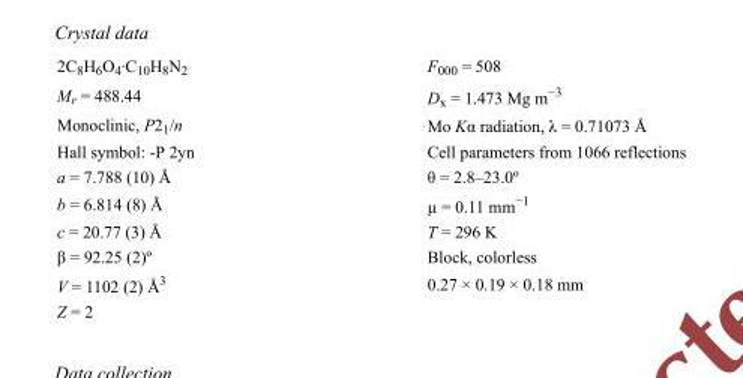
<table><tbody><tr><td>2C8H6O4·C10H8N2</td><td>F000 = 508</td></tr><tr><td>Mr = 488.44</td><td>Dx = 1.473 Mg m−3</td></tr><tr><td>Monoclinic, P21/n</td><td>Mo Kα radiation, λ = 0.71073 Å</td></tr><tr><td>Hall symbol: -P 2yn</td><td>Cell parameters from 1066 reflections</td></tr><tr><td>a = 7.788 (10) Å</td><td>θ = 2.8–23.0º</td></tr><tr><td>b = 6.814 (8) Å</td><td>µ = 0.11 mm−1</td></tr><tr><td>c = 20.77 (3) Å</td><td>T = 296 K</td></tr><tr><td>β = 92.25 (2)º</td><td>Block, colorless</td></tr><tr><td>V = 1102 (2) Å3</td><td>0.27 × 0.19 × 0.18 mm</td></tr><tr><td>Z = 2</td><td></td></tr></tbody></table>